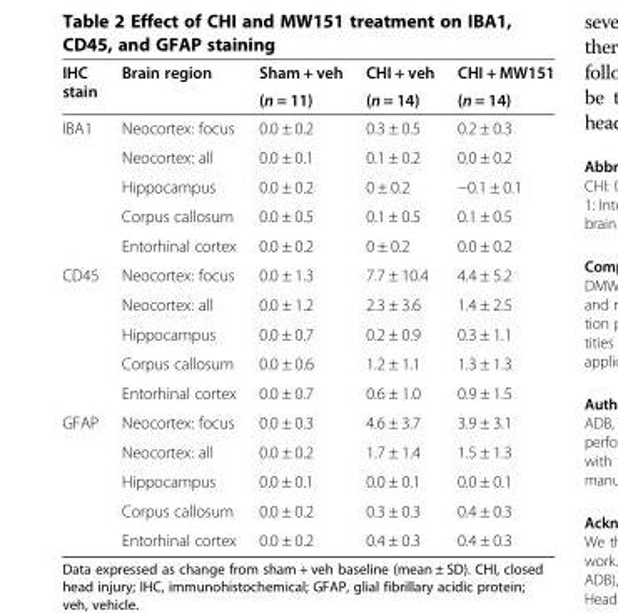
<table><thead><tr><td rowspan="2">IHC stain</td><td rowspan="2">Brain region</td><td rowspan="2">Sham + veh (n = 11)</td><td rowspan="2">CHI + veh (n = 14)</td><td rowspan="2">CHI + MW151 (n = 14)</td></tr><tr></tr></thead><tbody><tr><td rowspan="5">IBA1</td><td>Neocortex: focus</td><td>0.0 ± 0.2</td><td>0.3 ± 0.5</td><td>0.2 ± 0.3</td></tr><tr><td>Neocortex: all</td><td>0.0 ± 0.1</td><td>0.1 ± 0.2</td><td>0.0 ± 0.2</td></tr><tr><td>Hippocampus</td><td>0.0 ± 0.2</td><td>0 ± 0.2</td><td>−0.1 ± 0.1</td></tr><tr><td>Corpus callosum</td><td>0.0 ± 0.5</td><td>0.1 ± 0.5</td><td>0.1 ± 0.5</td></tr><tr><td>Entorhinal cortex</td><td>0.0 ± 0.2</td><td>0 ± 0.2</td><td>0.0 ± 0.2</td></tr><tr><td rowspan="5">CD45</td><td>Neocortex: focus</td><td>0.0 ± 1.3</td><td>7.7 ± 10.4</td><td>4.4 ± 5.2</td></tr><tr><td>Neocortex: all</td><td>0.0 ± 1.2</td><td>2.3 ± 3.6</td><td>1.4 ± 2.5</td></tr><tr><td>Hippocampus</td><td>0.0 ± 0.7</td><td>0.2 ± 0.9</td><td>0.3 ± 1.1</td></tr><tr><td>Corpus callosum</td><td>0.0 ± 0.6</td><td>1.2 ± 1.1</td><td>1.3 ± 1.3</td></tr><tr><td>Entorhinal cortex</td><td>0.0 ± 0.7</td><td>0.6 ± 1.0</td><td>0.9 ± 1.5</td></tr><tr><td rowspan="5">GFAP</td><td>Neocortex: focus</td><td>0.0 ± 0.3</td><td>4.6 ± 3.7</td><td>3.9 ± 3.1</td></tr><tr><td>Neocortex: all</td><td>0.0 ± 0.2</td><td>1.7 ± 1.4</td><td>1.5 ± 1.3</td></tr><tr><td>Hippocampus</td><td>0.0 ± 0.1</td><td>0.0 ± 0.1</td><td>0.0 ± 0.1</td></tr><tr><td>Corpus callosum</td><td>0.0 ± 0.2</td><td>0.3 ± 0.3</td><td>0.4 ± 0.3</td></tr><tr><td>Entorhinal cortex</td><td>0.0 ± 0.2</td><td>0.4 ± 0.3</td><td>0.4 ± 0.3</td></tr></tbody></table>